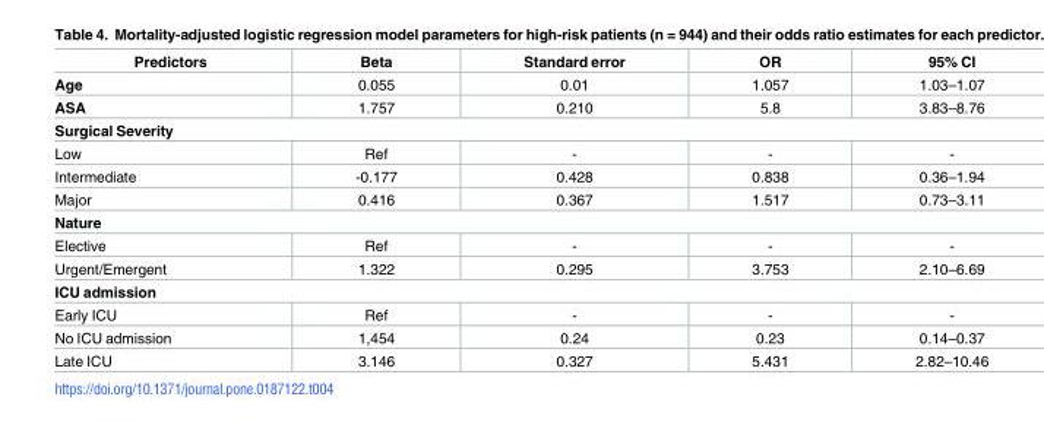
<table><thead><tr><td>Predictors</td><td>Beta</td><td>Standard error</td><td>OR</td><td>95% CI</td></tr></thead><tbody><tr><td>Age</td><td>0.055</td><td>0.01</td><td>1.057</td><td>1.03–1.07</td></tr><tr><td>ASA</td><td>1.757</td><td>0.210</td><td>5.8</td><td>3.83–8.76</td></tr><tr><td colspan="5">Surgical Severity</td></tr><tr><td>Low</td><td>Ref</td><td>-</td><td>-</td><td>-</td></tr><tr><td>Intermediate</td><td>-0.177</td><td>0.428</td><td>0.838</td><td>0.36–1.94</td></tr><tr><td>Major</td><td>0.416</td><td>0.367</td><td>1.517</td><td>0.73–3.11</td></tr><tr><td colspan="5">Nature</td></tr><tr><td>Elective</td><td>Ref</td><td>-</td><td>-</td><td>-</td></tr><tr><td>Urgent/Emergent</td><td>1.322</td><td>0.295</td><td>3.753</td><td>2.10–6.69</td></tr><tr><td colspan="5">ICU admission</td></tr><tr><td>Early ICU</td><td>Ref</td><td>-</td><td>-</td><td>-</td></tr><tr><td>No ICU admission</td><td>1,454</td><td>0.24</td><td>0.23</td><td>0.14–0.37</td></tr><tr><td>Late ICU</td><td>3.146</td><td>0.327</td><td>5.431</td><td>2.82–10.46</td></tr></tbody></table>